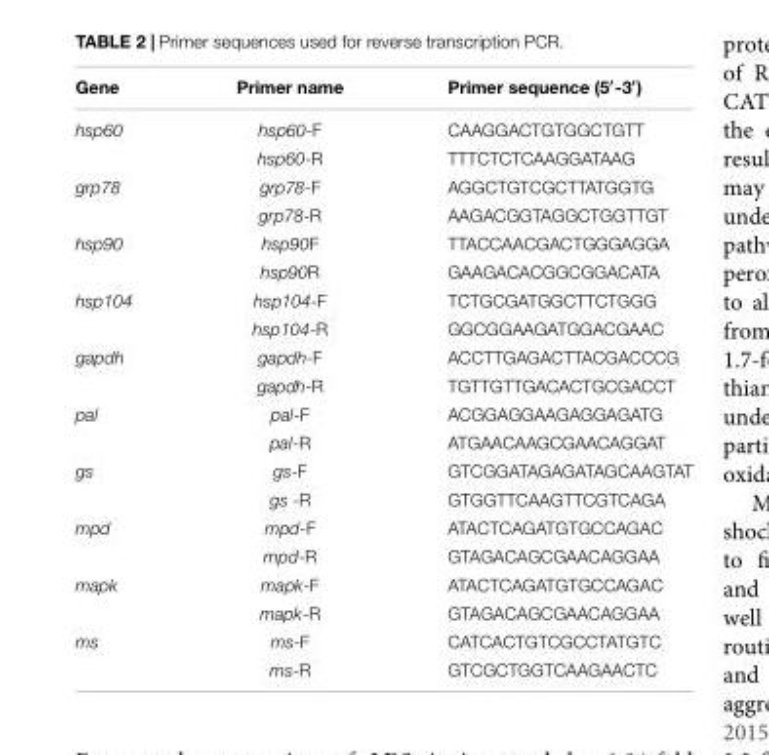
<table><thead><tr><td>Gene</td><td>Primer name</td><td>Primer sequence (5′-3′)</td></tr></thead><tbody><tr><td rowspan="2">hsp60</td><td>hsp60-F</td><td>CAAGGACTGTGGCTGTT</td></tr><tr><td>hsp60-R</td><td>TTTCTCTCAAGGATAAG</td></tr><tr><td rowspan="2">grp78</td><td>grp78-F</td><td>AGGCTGTCGCTTATGGTG</td></tr><tr><td>grp78-R</td><td>AAGACGGTAGGCTGGTTGT</td></tr><tr><td rowspan="2">hsp90</td><td>hsp90F</td><td>TTACCAACGACTGGGAGGA</td></tr><tr><td>hsp90R</td><td>GAAGACACGGCGGACATA</td></tr><tr><td rowspan="2">hsp104</td><td>hsp104-F</td><td>TCTGCGATGGCTTCTGGG</td></tr><tr><td>hsp104-R</td><td>GGCGGAAGATGGACGAAC</td></tr><tr><td rowspan="2">gapdh</td><td>gapdh-F</td><td>ACCTTGAGACTTACGACCCG</td></tr><tr><td>gapdh-R</td><td>TGTTGTTGACACTGCGACCT</td></tr><tr><td rowspan="2">pal</td><td>pal-F</td><td>ACGGAGGAAGAGGAGATG</td></tr><tr><td>pal-R</td><td>ATGAACAAGCGAACAGGAT</td></tr><tr><td rowspan="2">gs</td><td>gs-F</td><td>GTCGGATAGAGATAGCAAGTAT</td></tr><tr><td>gs -R</td><td>GTGGTTCAAGTTCGTCAGA</td></tr><tr><td rowspan="2">mpd</td><td>mpd-F</td><td>ATACTCAGATGTGCCAGAC</td></tr><tr><td>mpd-R</td><td>GTAGACAGCGAACAGGAA</td></tr><tr><td rowspan="2">mapk</td><td>mapk-F</td><td>ATACTCAGATGTGCCAGAC</td></tr><tr><td>mapk-R</td><td>GTAGACAGCGAACAGGAA</td></tr><tr><td rowspan="2">ms</td><td>ms-F</td><td>CATCACTGTCGCCTATGTC</td></tr><tr><td>ms-R</td><td>GTCGCTGGTCAAGAACTC</td></tr></tbody></table>